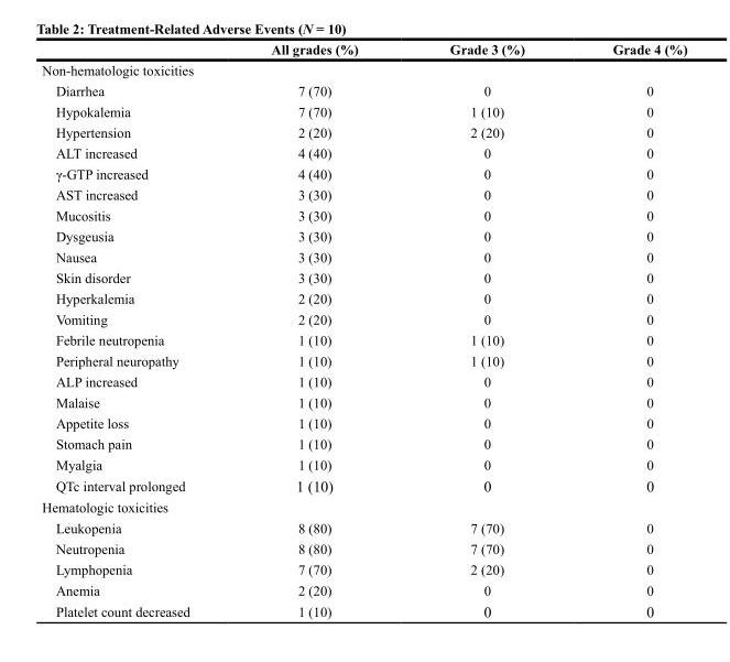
<table><thead><tr><td></td><td>All grades (%)</td><td>Grade 3 (%)</td><td>Grade 4 (%)</td></tr></thead><tbody><tr><td colspan="4">Non-hematologic toxicities</td></tr><tr><td>Diarrhea</td><td>7 (70)</td><td>0</td><td>0</td></tr><tr><td>Hypokalemia</td><td>7 (70)</td><td>1 (10)</td><td>0</td></tr><tr><td>Hypertension</td><td>2 (20)</td><td>2 (20)</td><td>0</td></tr><tr><td>ALT increased</td><td>4 (40)</td><td>0</td><td>0</td></tr><tr><td>γ-GTP increased</td><td>4 (40)</td><td>0</td><td>0</td></tr><tr><td>AST increased</td><td>3 (30)</td><td>0</td><td>0</td></tr><tr><td>Mucositis</td><td>3 (30)</td><td>0</td><td>0</td></tr><tr><td>Dysgeusia</td><td>3 (30)</td><td>0</td><td>0</td></tr><tr><td>Nausea</td><td>3 (30)</td><td>0</td><td>0</td></tr><tr><td>Skin disorder</td><td>3 (30)</td><td>0</td><td>0</td></tr><tr><td>Hyperkalemia</td><td>2 (20)</td><td>0</td><td>0</td></tr><tr><td>Vomiting</td><td>2 (20)</td><td>0</td><td>0</td></tr><tr><td>Febrile neutropenia</td><td>1 (10)</td><td>1 (10)</td><td>0</td></tr><tr><td>Peripheral neuropathy</td><td>1 (10)</td><td>1 (10)</td><td>0</td></tr><tr><td>ALP increased</td><td>1 (10)</td><td>0</td><td>0</td></tr><tr><td>Malaise</td><td>1 (10)</td><td>0</td><td>0</td></tr><tr><td>Appetite loss</td><td>1 (10)</td><td>0</td><td>0</td></tr><tr><td>Stomach pain</td><td>1 (10)</td><td>0</td><td>0</td></tr><tr><td>Myalgia</td><td>1 (10)</td><td>0</td><td>0</td></tr><tr><td>QTc interval prolonged</td><td>1 (10)</td><td>0</td><td>0</td></tr><tr><td colspan="4">Hematologic toxicities</td></tr><tr><td>Leukopenia</td><td>8 (80)</td><td>7 (70)</td><td>0</td></tr><tr><td>Neutropenia</td><td>8 (80)</td><td>7 (70)</td><td>0</td></tr><tr><td>Lymphopenia</td><td>7 (70)</td><td>2 (20)</td><td>0</td></tr><tr><td>Anemia</td><td>2 (20)</td><td>0</td><td>0</td></tr><tr><td>Platelet count decreased</td><td>1 (10)</td><td>0</td><td>0</td></tr></tbody></table>